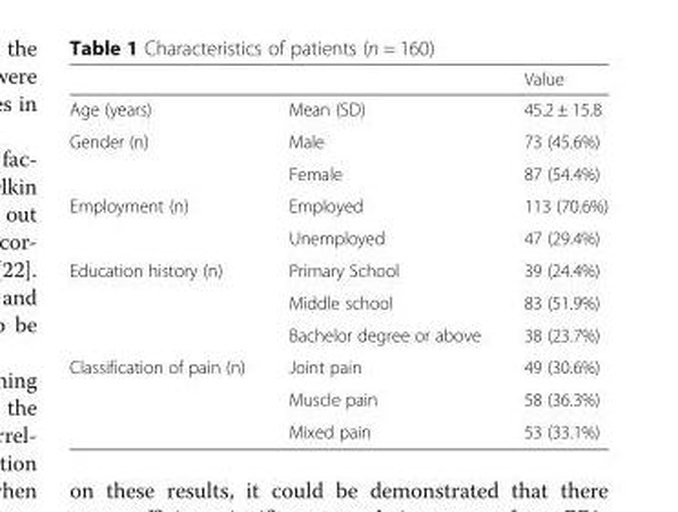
<table><thead><tr><td></td><td></td><td>Value</td></tr></thead><tbody><tr><td>Age (years)</td><td>Mean (SD)</td><td>45.2 ± 15.8</td></tr><tr><td rowspan="2">Gender (n)</td><td>Male</td><td>73 (45.6%)</td></tr><tr><td>Female</td><td>87 (54.4%)</td></tr><tr><td rowspan="2">Employment (n)</td><td>Employed</td><td>113 (70.6%)</td></tr><tr><td>Unemployed</td><td>47 (29.4%)</td></tr><tr><td rowspan="3">Education history (n)</td><td>Primary School</td><td>39 (24.4%)</td></tr><tr><td>Middle school</td><td>83 (51.9%)</td></tr><tr><td>Bachelor degree or above</td><td>38 (23.7%)</td></tr><tr><td rowspan="3">Classification of pain (n)</td><td>Joint pain</td><td>49 (30.6%)</td></tr><tr><td>Muscle pain</td><td>58 (36.3%)</td></tr><tr><td>Mixed pain</td><td>53 (33.1%)</td></tr></tbody></table>